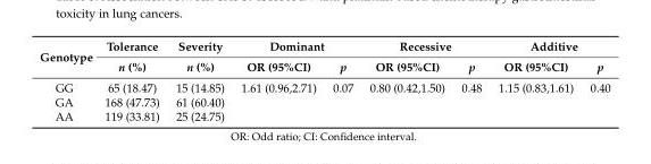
<table><thead><tr><td rowspan="2">Genotype</td><td rowspan="2">Tolerance n (%)</td><td rowspan="2">Severity n (%)</td><td colspan="2">Dominant</td><td colspan="2">Recessive</td><td colspan="2">Additive</td></tr><tr><td>OR (95%CI)</td><td>p</td><td>OR (95%CI)</td><td>p</td><td>OR (95%CI)</td><td>p</td></tr></thead><tbody><tr><td>GG</td><td>65 (18.47)</td><td>15 (14.85)</td><td>1.61 (0.96,2.71)</td><td>0.07</td><td>0.80 (0.42,1.50)</td><td>0.48</td><td>1.15 (0.83,1.61)</td><td>0.40</td></tr><tr><td>GA</td><td>168 (47.73)</td><td>61 (60.40)</td><td></td><td></td><td></td><td></td><td></td><td></td></tr><tr><td>AA</td><td>119 (33.81)</td><td>25 (24.75)</td><td></td><td></td><td></td><td></td><td></td><td></td></tr></tbody></table>